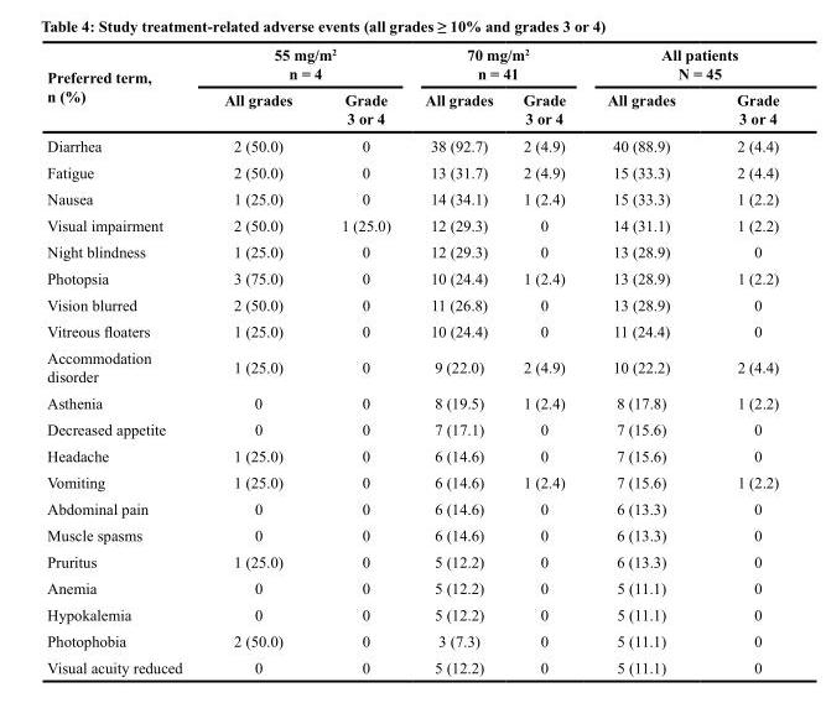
<table><thead><tr><td rowspan="2">Preferred term, n (%)</td><td colspan="2">55 mg/m<sup>2</sup> n = 4</td><td colspan="2">70 mg/m<sup>2</sup> n = 41</td><td colspan="2">All patients N = 45</td></tr><tr><td>All grades</td><td>Grade 3 or 4</td><td>All grades</td><td>Grade 3 or 4</td><td>All grades</td><td>Grade 3 or 4</td></tr></thead><tbody><tr><td>Diarrhea</td><td>2 (50.0)</td><td>0</td><td>38 (92.7)</td><td>2 (4.9)</td><td>40 (88.9)</td><td>2 (4.4)</td></tr><tr><td>Fatigue</td><td>2 (50.0)</td><td>0</td><td>13 (31.7)</td><td>2 (4.9)</td><td>15 (33.3)</td><td>2 (4.4)</td></tr><tr><td>Nausea</td><td>1 (25.0)</td><td>0</td><td>14 (34.1)</td><td>1 (2.4)</td><td>15 (33.3)</td><td>1 (2.2)</td></tr><tr><td>Visual impairment</td><td>2 (50.0)</td><td>1 (25.0)</td><td>12 (29.3)</td><td>0</td><td>14 (31.1)</td><td>1 (2.2)</td></tr><tr><td>Night blindness</td><td>1 (25.0)</td><td>0</td><td>12 (29.3)</td><td>0</td><td>13 (28.9)</td><td>0</td></tr><tr><td>Photopsia</td><td>3 (75.0)</td><td>0</td><td>10 (24.4)</td><td>1 (2.4)</td><td>13 (28.9)</td><td>1 (2.2)</td></tr><tr><td>Vision blurred</td><td>2 (50.0)</td><td>0</td><td>11 (26.8)</td><td>0</td><td>13 (28.9)</td><td>0</td></tr><tr><td>Vitreous floaters</td><td>1 (25.0)</td><td>0</td><td>10 (24.4)</td><td>0</td><td>11 (24.4)</td><td>0</td></tr><tr><td>Accommodation disorder</td><td>1 (25.0)</td><td>0</td><td>9 (22.0)</td><td>2 (4.9)</td><td>10 (22.2)</td><td>2 (4.4)</td></tr><tr><td>Asthenia</td><td>0</td><td>0</td><td>8 (19.5)</td><td>1 (2.4)</td><td>8 (17.8)</td><td>1 (2.2)</td></tr><tr><td>Decreased appetite</td><td>0</td><td>0</td><td>7 (17.1)</td><td>0</td><td>7 (15.6)</td><td>0</td></tr><tr><td>Headache</td><td>1 (25.0)</td><td>0</td><td>6 (14.6)</td><td>0</td><td>7 (15.6)</td><td>0</td></tr><tr><td>Vomiting</td><td>1 (25.0)</td><td>0</td><td>6 (14.6)</td><td>1 (2.4)</td><td>7 (15.6)</td><td>1 (2.2)</td></tr><tr><td>Abdominal pain</td><td>0</td><td>0</td><td>6 (14.6)</td><td>0</td><td>6 (13.3)</td><td>0</td></tr><tr><td>Muscle spasms</td><td>0</td><td>0</td><td>6 (14.6)</td><td>0</td><td>6 (13.3)</td><td>0</td></tr><tr><td>Pruritus</td><td>1 (25.0)</td><td>0</td><td>5 (12.2)</td><td>0</td><td>6 (13.3)</td><td>0</td></tr><tr><td>Anemia</td><td>0</td><td>0</td><td>5 (12.2)</td><td>0</td><td>5 (11.1)</td><td>0</td></tr><tr><td>Hypokalemia</td><td>0</td><td>0</td><td>5 (12.2)</td><td>0</td><td>5 (11.1)</td><td>0</td></tr><tr><td>Photophobia</td><td>2 (50.0)</td><td>0</td><td>3 (7.3)</td><td>0</td><td>5 (11.1)</td><td>0</td></tr><tr><td>Visual acuity reduced</td><td>0</td><td>0</td><td>5 (12.2)</td><td>0</td><td>5 (11.1)</td><td>0</td></tr></tbody></table>